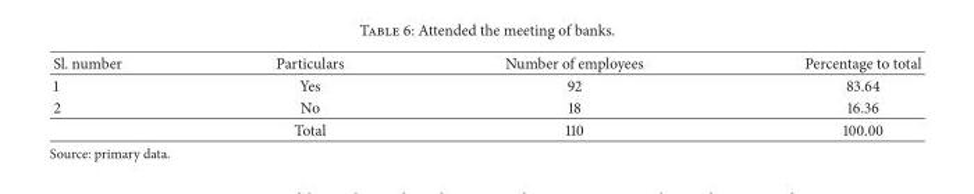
<table><thead><tr><td>Sl. number</td><td>Particulars</td><td>Number of employees</td><td>Percentage to total</td></tr></thead><tbody><tr><td>1</td><td>Yes</td><td>92</td><td>83.64</td></tr><tr><td rowspan="2">2</td><td>No</td><td>18</td><td>16.36</td></tr><tr><td>Total</td><td>110</td><td>100.00</td></tr></tbody></table>